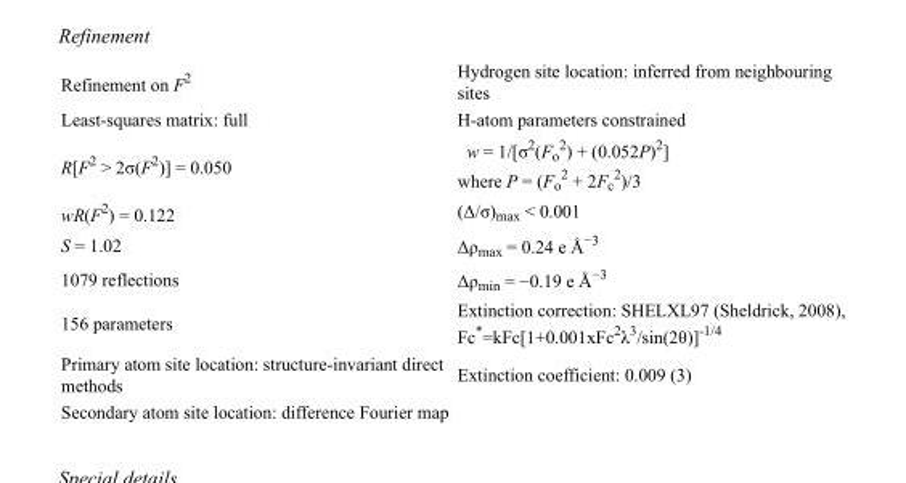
<table><tbody><tr><td>Refinement on F<sup>2</sup></td><td>Hydrogen site location: inferred from neighbouring sites</td></tr><tr><td>Least-squares matrix: full</td><td>H-atom parameters constrained</td></tr><tr><td>R[F<sup>2</sup> &gt; 2σ(F<sup>2</sup>)] = 0.050</td><td>w = 1/[σ<sup>2</sup>(F<sub>o</sub> <sup>2</sup>) + (0.052P)<sup>2</sup>] where P = (F<sub>o</sub> <sup>2</sup> + 2F<sub>c</sub> <sup>2</sup>)/3</td></tr><tr><td>wR(F<sup>2</sup>) = 0.122</td><td>(Δ/σ)<sub>max</sub> &lt; 0.001</td></tr><tr><td>S = 1.02</td><td>Δρ<sub>max</sub> = 0.24 e Å<sup>−3</sup></td></tr><tr><td>1079 reflections</td><td>Δρ<sub>min</sub> = −0.19 e Å<sup>−3</sup></td></tr><tr><td>156 parameters</td><td>Extinction correction: SHELXL97 (Sheldrick, 2008), Fc*=kFc[1+0.001xFc<sup>2</sup>λ<sup>3</sup>/sin(2θ)]<sup>-1/4</sup></td></tr><tr><td>Primary atom site location: structure-invariant direct methods</td><td>Extinction coefficient: 0.009 (3)</td></tr><tr><td>Secondary atom site location: difference Fourier map</td><td></td></tr></tbody></table>